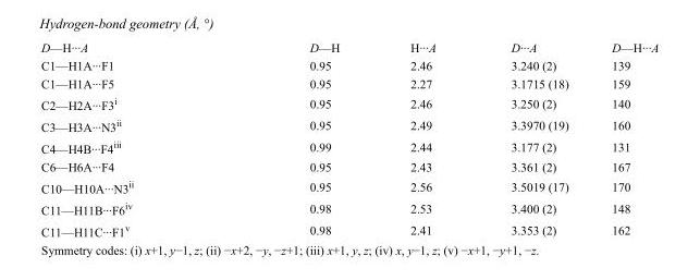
<table><tbody><tr><td>D—H···A</td><td>D—H</td><td>H···A</td><td>D···A</td><td>D—H···A</td></tr><tr><td>C1—H1A···F1</td><td>0.95</td><td>2.46</td><td>3.240 (2)</td><td>139</td></tr><tr><td>C1—H1A···F5</td><td>0.95</td><td>2.27</td><td>3.1715 (18)</td><td>159</td></tr><tr><td>C2—H2A···F3<sup>i</sup></td><td>0.95</td><td>2.46</td><td>3.250 (2)</td><td>140</td></tr><tr><td>C3—H3A···N3<sup>ii</sup></td><td>0.95</td><td>2.49</td><td>3.3970 (19)</td><td>160</td></tr><tr><td>C4—H4B···F4<sup>iii</sup></td><td>0.99</td><td>2.44</td><td>3.177 (2)</td><td>131</td></tr><tr><td>C6—H6A···F4</td><td>0.95</td><td>2.43</td><td>3.361 (2)</td><td>167</td></tr><tr><td>C10—H10A···N3<sup>ii</sup></td><td>0.95</td><td>2.56</td><td>3.5019 (17)</td><td>170</td></tr><tr><td>C11—H11B···F6<sup>iv</sup></td><td>0.98</td><td>2.53</td><td>3.400 (2)</td><td>148</td></tr><tr><td>C11—H11C···F1<sup>v</sup></td><td>0.98</td><td>2.41</td><td>3.353 (2)</td><td>162</td></tr></tbody></table>